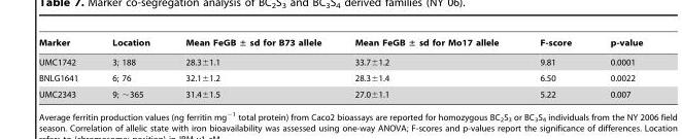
<table><thead><tr><td>Marker</td><td>Location</td><td>Mean FeGB ± sd for B73 allele</td><td>Mean FeGB ± sd for Mo17 allele</td><td>F-score</td><td>p-value</td></tr></thead><tbody><tr><td>UMC1742</td><td>3; 188</td><td>28.3±1.1</td><td>33.7±1.2</td><td>9.81</td><td>0.0001</td></tr><tr><td>BNLG1641</td><td>6; 76</td><td>32.1±1.2</td><td>28.3±1.4</td><td>6.50</td><td>0.0022</td></tr><tr><td>UMC2343</td><td>9; ∼365</td><td>31.4±1.5</td><td>27.0±1.1</td><td>5.22</td><td>0.007</td></tr></tbody></table>